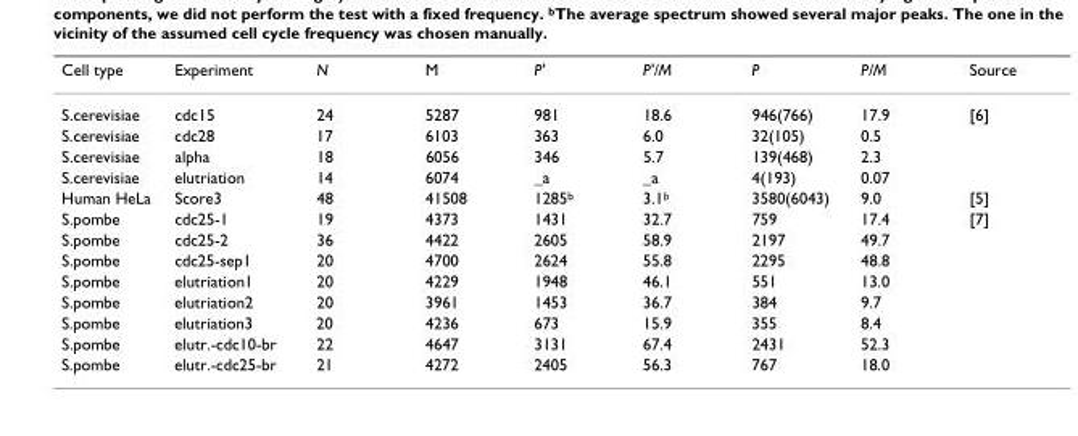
<table><thead><tr><td>Cell type</td><td>Experiment</td><td>N</td><td>M</td><td>P&#x27;</td><td>P&#x27;/M</td><td>P</td><td>P/M</td><td>Source</td></tr></thead><tbody><tr><td>S.cerevisiae</td><td>cdc15</td><td>24</td><td>5287</td><td>981</td><td>18.6</td><td>946(766)</td><td>17.9</td><td>[6]</td></tr><tr><td>S.cerevisiae</td><td>cdc28</td><td>17</td><td>6103</td><td>363</td><td>6.0</td><td>32(105)</td><td>0.5</td><td></td></tr><tr><td>S.cerevisiae</td><td>alpha</td><td>18</td><td>6056</td><td>346</td><td>5.7</td><td>139(468)</td><td>2.3</td><td></td></tr><tr><td>S.cerevisiae</td><td>elutriation</td><td>14</td><td>6074</td><td>_a</td><td>_a</td><td>4(193)</td><td>0.07</td><td></td></tr><tr><td>Human HeLa</td><td>Score3</td><td>48</td><td>41508</td><td>1285b</td><td>3.1b</td><td>3580(6043)</td><td>9.0</td><td>[5]</td></tr><tr><td>S.pombe</td><td>cdc25-1</td><td>19</td><td>4373</td><td>1431</td><td>32.7</td><td>759</td><td>17.4</td><td>[7]</td></tr><tr><td>S.pombe</td><td>cdc25-2</td><td>36</td><td>4422</td><td>2605</td><td>58.9</td><td>2197</td><td>49.7</td><td></td></tr><tr><td>S.pombe</td><td>cdc25-sep1</td><td>20</td><td>4700</td><td>2624</td><td>55.8</td><td>2295</td><td>48.8</td><td></td></tr><tr><td>S.pombe</td><td>elutriation1</td><td>20</td><td>4229</td><td>1948</td><td>46.1</td><td>551</td><td>13.0</td><td></td></tr><tr><td>S.pombe</td><td>elutriation2</td><td>20</td><td>3961</td><td>1453</td><td>36.7</td><td>384</td><td>9.7</td><td></td></tr><tr><td>S.pombe</td><td>elutriation3</td><td>20</td><td>4236</td><td>673</td><td>15.9</td><td>355</td><td>8.4</td><td></td></tr><tr><td>S.pombe</td><td>elutr.-cdc10-br</td><td>22</td><td>4647</td><td>3131</td><td>67.4</td><td>2431</td><td>52.3</td><td></td></tr><tr><td>S.pombe</td><td>elutr.-cdc25-br</td><td>21</td><td>4272</td><td>2405</td><td>56.3</td><td>767</td><td>18.0</td><td></td></tr></tbody></table>